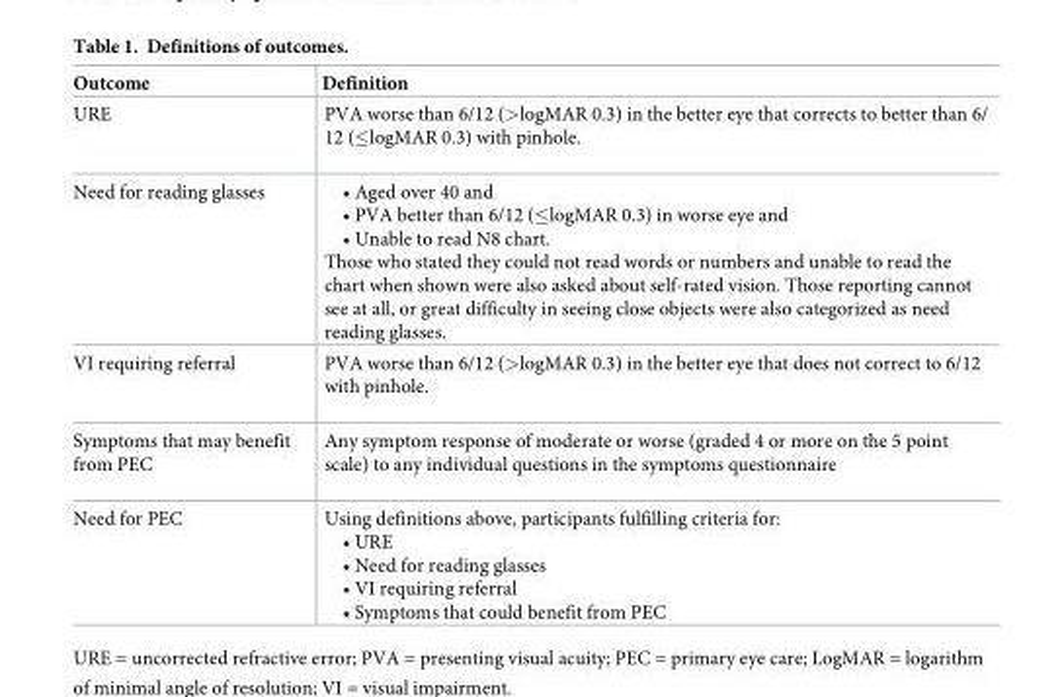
<table><thead><tr><td>Outcome</td><td>Definition</td></tr></thead><tbody><tr><td>URE</td><td>PVA worse than 6/12 (&gt;logMAR 0.3) in the better eye that corrects to better than 6/ 12 (≤logMAR 0.3) with pinhole.</td></tr><tr><td>Need for reading glasses</td><td>• Aged over 40 and • PVA better than 6/12 (≤logMAR 0.3) in worse eye and • Unable to read N8 chart. Those who stated they could not read words or numbers and unable to read the chart when shown were also asked about self-rated vision. Those reporting cannot see at all, or great difficulty in seeing close objects were also categorized as need reading glasses.</td></tr><tr><td>VI requiring referral</td><td>PVA worse than 6/12 (&gt;logMAR 0.3) in the better eye that does not correct to 6/12 with pinhole.</td></tr><tr><td>Symptoms that may benefit from PEC</td><td>Any symptom response of moderate or worse (graded 4 or more on the 5 point scale) to any individual questions in the symptoms questionnaire</td></tr><tr><td>Need for PEC</td><td>Using definitions above, participants fulfilling criteria for: • URE • Need for reading glasses • VI requiring referral • Symptoms that could benefit from PEC</td></tr></tbody></table>